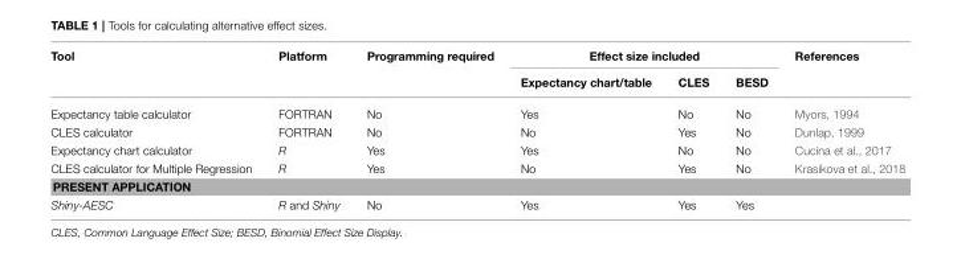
<table><thead><tr><td rowspan="2">Tool</td><td rowspan="2">Platform</td><td rowspan="2">Programming required</td><td colspan="3">Effect size included</td><td rowspan="2">References</td></tr><tr><td>Expectancy chart/table</td><td>CLES</td><td>BESD</td></tr></thead><tbody><tr><td>Expectancy table calculator</td><td>FORTRAN</td><td>No</td><td>Yes</td><td>No</td><td>No</td><td>Myors, 1994</td></tr><tr><td>CLES calculator</td><td>FORTRAN</td><td>No</td><td>No</td><td>Yes</td><td>No</td><td>Dunlap, 1999</td></tr><tr><td>Expectancy chart calculator</td><td>R</td><td>Yes</td><td>Yes</td><td>No</td><td>No</td><td>Cucina et al., 2017</td></tr><tr><td>CLES calculator for Multiple Regression</td><td>R</td><td>Yes</td><td>No</td><td>Yes</td><td>No</td><td>Krasikova et al., 2018</td></tr><tr><td colspan="7">PRESENT APPLICATION</td></tr><tr><td>Shiny-AESC</td><td>R and Shiny</td><td>No</td><td>Yes</td><td>Yes</td><td>Yes</td><td></td></tr></tbody></table>